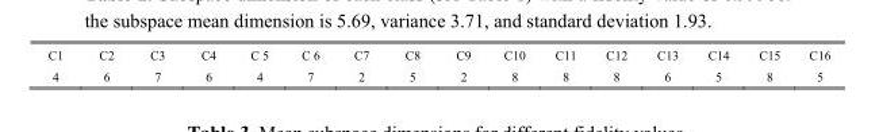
<table><thead><tr><td>C1</td><td>C2</td><td>C3</td><td>C4</td><td>C 5</td><td>C 6</td><td>C7</td><td>C8</td><td>C9</td><td>C10</td><td>C11</td><td>C12</td><td>C13</td><td>C14</td><td>C15</td><td>C16</td></tr></thead><tbody><tr><td>4</td><td>6</td><td>7</td><td>6</td><td>4</td><td>7</td><td>2</td><td>5</td><td>2</td><td>8</td><td>8</td><td>8</td><td>6</td><td>5</td><td>8</td><td>5</td></tr></tbody></table>